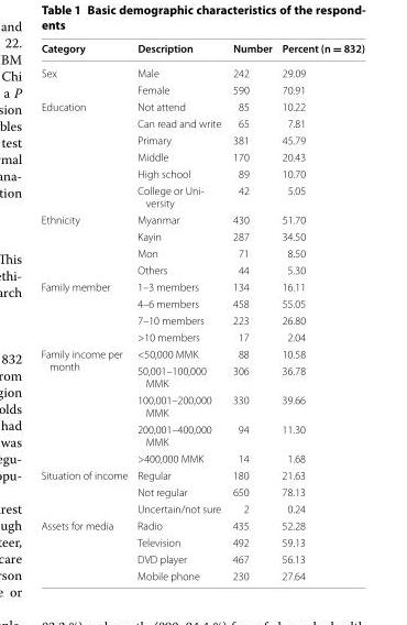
<table><thead><tr><td>Category</td><td>Description</td><td>Number</td><td>Percent (n = 832)</td></tr></thead><tbody><tr><td rowspan="2">Sex</td><td>Male</td><td>242</td><td>29.09</td></tr><tr><td>Female</td><td>590</td><td>70.91</td></tr><tr><td rowspan="6">Education</td><td>Not attend</td><td>85</td><td>10.22</td></tr><tr><td>Can read and write</td><td>65</td><td>7.81</td></tr><tr><td>Primary</td><td>381</td><td>45.79</td></tr><tr><td>Middle</td><td>170</td><td>20.43</td></tr><tr><td>High school</td><td>89</td><td>10.70</td></tr><tr><td>College or Uni- versity</td><td>42</td><td>5.05</td></tr><tr><td rowspan="4">Ethnicity</td><td>Myanmar</td><td>430</td><td>51.70</td></tr><tr><td>Kayin</td><td>287</td><td>34.50</td></tr><tr><td>Mon</td><td>71</td><td>8.50</td></tr><tr><td>Others</td><td>44</td><td>5.30</td></tr><tr><td rowspan="4">Family member</td><td>1–3 members</td><td>134</td><td>16.11</td></tr><tr><td>4–6 members</td><td>458</td><td>55.05</td></tr><tr><td>7–10 members</td><td>223</td><td>26.80</td></tr><tr><td>&gt;10 members</td><td>17</td><td>2.04</td></tr><tr><td rowspan="5">Family income per month</td><td>&lt;50,000 MMK</td><td>88</td><td>10.58</td></tr><tr><td>50,001–100,000 MMK</td><td>306</td><td>36.78</td></tr><tr><td>100,001–200,000 MMK</td><td>330</td><td>39.66</td></tr><tr><td>200,001–400,000 MMK</td><td>94</td><td>11.30</td></tr><tr><td>&gt;400,000 MMK</td><td>14</td><td>1.68</td></tr><tr><td rowspan="3">Situation of income</td><td>Regular</td><td>180</td><td>21.63</td></tr><tr><td>Not regular</td><td>650</td><td>78.13</td></tr><tr><td>Uncertain/not sure</td><td>2</td><td>0.24</td></tr><tr><td rowspan="4">Assets for media</td><td>Radio</td><td>435</td><td>52.28</td></tr><tr><td>Television</td><td>492</td><td>59.13</td></tr><tr><td>DVD player</td><td>467</td><td>56.13</td></tr><tr><td>Mobile phone</td><td>230</td><td>27.64</td></tr></tbody></table>